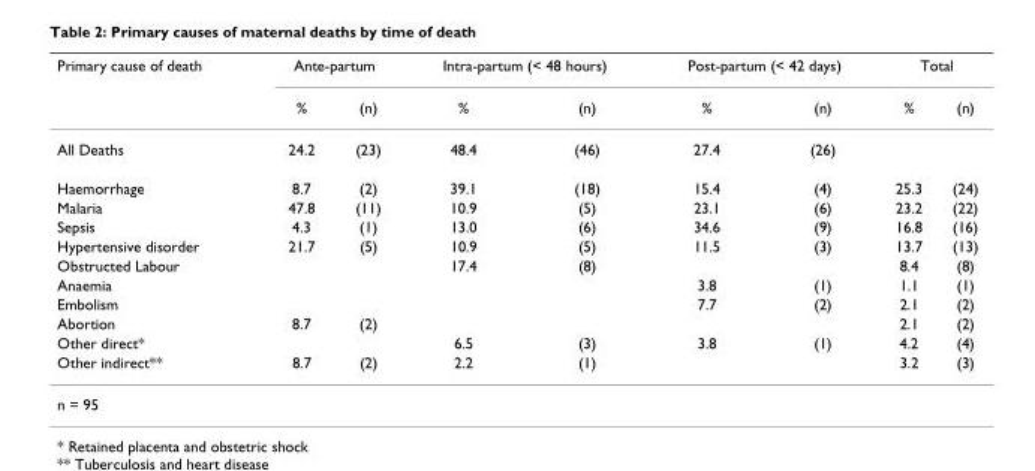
<table><thead><tr><td rowspan="2">Primary cause of death</td><td colspan="2">Ante-partum</td><td colspan="2">Intra-partum (&lt; 48 hours)</td><td colspan="2">Post-partum (&lt; 42 days)</td><td colspan="2">Total</td></tr><tr><td>%</td><td>(n)</td><td>%</td><td>(n)</td><td>%</td><td>(n)</td><td>%</td><td>(n)</td></tr></thead><tbody><tr><td>All Deaths</td><td>24.2</td><td>(23)</td><td>48.4</td><td>(46)</td><td>27.4</td><td>(26)</td><td></td><td></td></tr><tr><td>Haemorrhage</td><td>8.7</td><td>(2)</td><td>39.1</td><td>(18)</td><td>15.4</td><td>(4)</td><td>25.3</td><td>(24)</td></tr><tr><td>Malaria</td><td>47.8</td><td>(11)</td><td>10.9</td><td>(5)</td><td>23.1</td><td>(6)</td><td>23.2</td><td>(22)</td></tr><tr><td>Sepsis</td><td>4.3</td><td>(1)</td><td>13.0</td><td>(6)</td><td>34.6</td><td>(9)</td><td>16.8</td><td>(16)</td></tr><tr><td>Hypertensive disorder</td><td>21.7</td><td>(5)</td><td>10.9</td><td>(5)</td><td>11.5</td><td>(3)</td><td>13.7</td><td>(13)</td></tr><tr><td>Obstructed Labour</td><td></td><td></td><td>17.4</td><td>(8)</td><td></td><td></td><td>8.4</td><td>(8)</td></tr><tr><td>Anaemia</td><td></td><td></td><td></td><td></td><td>3.8</td><td>(1)</td><td>1.1</td><td>(1)</td></tr><tr><td>Embolism</td><td></td><td></td><td></td><td></td><td>7.7</td><td>(2)</td><td>2.1</td><td>(2)</td></tr><tr><td>Abortion</td><td>8.7</td><td>(2)</td><td></td><td></td><td></td><td></td><td>2.1</td><td>(2)</td></tr><tr><td>Other direct*</td><td></td><td></td><td>6.5</td><td>(3)</td><td>3.8</td><td>(1)</td><td>4.2</td><td>(4)</td></tr><tr><td>Other indirect**</td><td>8.7</td><td>(2)</td><td>2.2</td><td>(1)</td><td></td><td></td><td>3.2</td><td>(3)</td></tr><tr><td>n = 95</td><td></td><td></td><td></td><td></td><td></td><td></td><td></td><td></td></tr></tbody></table>